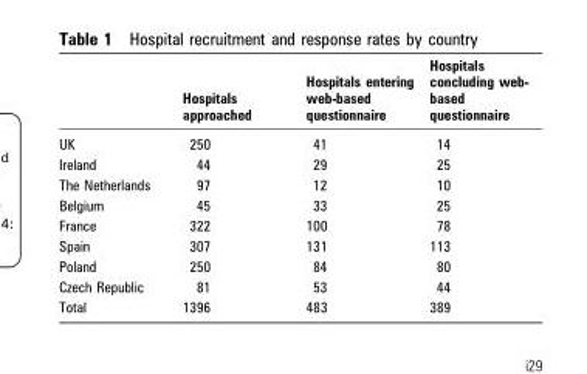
<table><thead><tr><td></td><td>Hospitals approached</td><td>Hospitals entering web-based questionnaire</td><td>Hospitals concluding web- based questionnaire</td></tr></thead><tbody><tr><td>UK</td><td>250</td><td>41</td><td>14</td></tr><tr><td>Ireland</td><td>44</td><td>29</td><td>25</td></tr><tr><td>The Netherlands</td><td>97</td><td>12</td><td>10</td></tr><tr><td>Belgium</td><td>45</td><td>33</td><td>25</td></tr><tr><td>France</td><td>322</td><td>100</td><td>78</td></tr><tr><td>Spain</td><td>307</td><td>131</td><td>113</td></tr><tr><td>Poland</td><td>250</td><td>84</td><td>80</td></tr><tr><td>Czech Republic</td><td>81</td><td>53</td><td>44</td></tr><tr><td>Total</td><td>1396</td><td>483</td><td>389</td></tr></tbody></table>